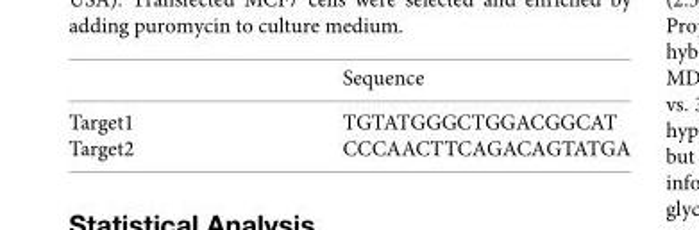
<table><tbody><tr><td colspan="2">Sequence</td></tr><tr><td>Target1</td><td>TGTATGGGCTGGACGGCAT</td></tr><tr><td>Target2</td><td>CCCAACTTCAGACAGTATGA</td></tr></tbody></table>